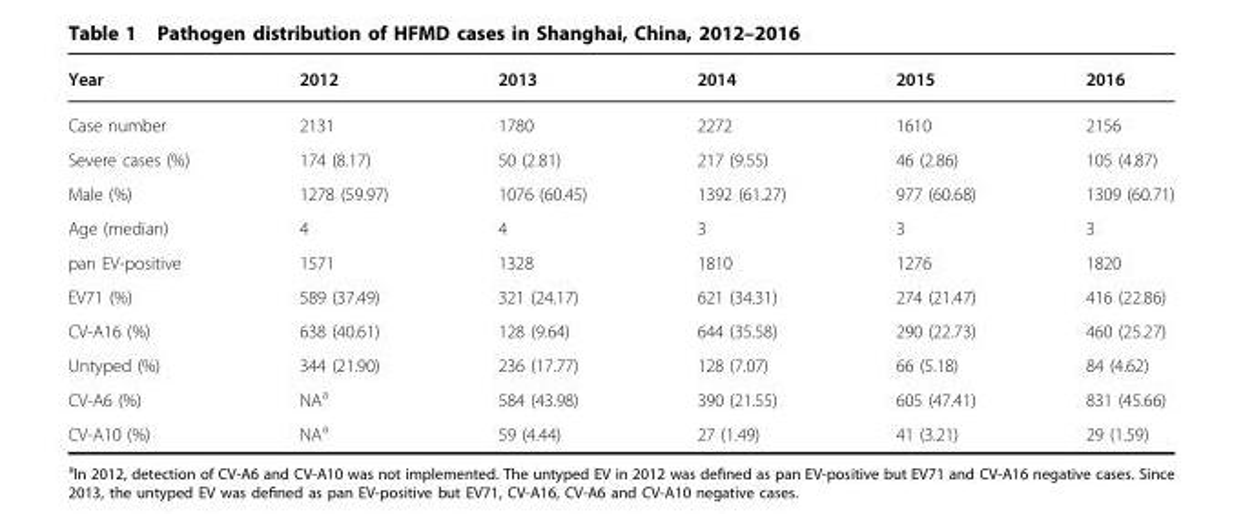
<table><thead><tr><td>Year</td><td>2012</td><td>2013</td><td>2014</td><td>2015</td><td>2016</td></tr></thead><tbody><tr><td>Case number</td><td>2131</td><td>1780</td><td>2272</td><td>1610</td><td>2156</td></tr><tr><td>Severe cases (%)</td><td>174 (8.17)</td><td>50 (2.81)</td><td>217 (9.55)</td><td>46 (2.86)</td><td>105 (4.87)</td></tr><tr><td>Male (%)</td><td>1278 (59.97)</td><td>1076 (60.45)</td><td>1392 (61.27)</td><td>977 (60.68)</td><td>1309 (60.71)</td></tr><tr><td>Age (median)</td><td>4</td><td>4</td><td>3</td><td>3</td><td>3</td></tr><tr><td>pan EV-positive</td><td>1571</td><td>1328</td><td>1810</td><td>1276</td><td>1820</td></tr><tr><td>EV71 (%)</td><td>589 (37.49)</td><td>321 (24.17)</td><td>621 (34.31)</td><td>274 (21.47)</td><td>416 (22.86)</td></tr><tr><td>CV-A16 (%)</td><td>638 (40.61)</td><td>128 (9.64)</td><td>644 (35.58)</td><td>290 (22.73)</td><td>460 (25.27)</td></tr><tr><td>Untyped (%)</td><td>344 (21.90)</td><td>236 (17.77)</td><td>128 (7.07)</td><td>66 (5.18)</td><td>84 (4.62)</td></tr><tr><td>CV-A6 (%)</td><td>NA<sup>a</sup></td><td>584 (43.98)</td><td>390 (21.55)</td><td>605 (47.41)</td><td>831 (45.66)</td></tr><tr><td>CV-A10 (%)</td><td>NA<sup>a</sup></td><td>59 (4.44)</td><td>27 (1.49)</td><td>41 (3.21)</td><td>29 (1.59)</td></tr></tbody></table>